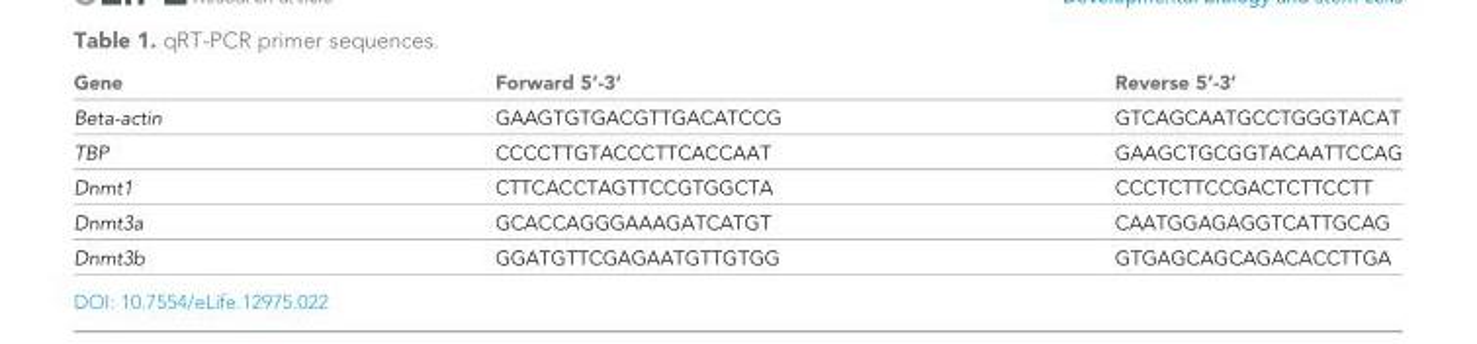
<table><thead><tr><td>Gene</td><td>Forward 5’-3’</td><td>Reverse 5’-3’</td></tr></thead><tbody><tr><td>Beta-actin</td><td>GAAGTGTGACGTTGACATCCG</td><td>GTCAGCAATGCCTGGGTACAT</td></tr><tr><td>TBP</td><td>CCCCTTGTACCCTTCACCAAT</td><td>GAAGCTGCGGTACAATTCCAG</td></tr><tr><td>Dnmt1</td><td>CTTCACCTAGTTCCGTGGCTA</td><td>CCCTCTTCCGACTCTTCCTT</td></tr><tr><td>Dnmt3a</td><td>GCACCAGGGAAAGATCATGT</td><td>CAATGGAGAGGTCATTGCAG</td></tr><tr><td>Dnmt3b</td><td>GGATGTTCGAGAATGTTGTGG</td><td>GTGAGCAGCAGACACCTTGA</td></tr></tbody></table>